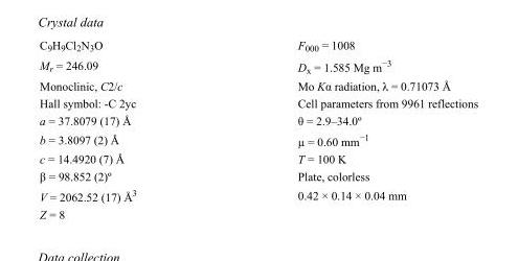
<table><tbody><tr><td>C<sub>9</sub>H<sub>9</sub>Cl<sub>2</sub>N<sub>3</sub>O</td><td>F000 = 1008</td></tr><tr><td>M<sub>r</sub> = 246.09</td><td>D<sub>x</sub> = 1.585 Mg m<sup>−3</sup></td></tr><tr><td>Monoclinic, C2/c</td><td>Mo Kα radiation, λ = 0.71073 Å</td></tr><tr><td>Hall symbol: -C 2yc</td><td>Cell parameters from 9961 reflections</td></tr><tr><td>a = 37.8079 (17) Å</td><td>θ = 2.9–34.0º</td></tr><tr><td>b = 3.8097 (2) Å</td><td>µ = 0.60 mm<sup>−1</sup></td></tr><tr><td>c = 14.4920 (7) Å</td><td>T = 100 K</td></tr><tr><td>β = 98.852 (2)º</td><td>Plate, colorless</td></tr><tr><td>V = 2062.52 (17) Å<sup>3</sup></td><td>0.42 × 0.14 × 0.04 mm</td></tr><tr><td>Z = 8</td><td></td></tr></tbody></table>